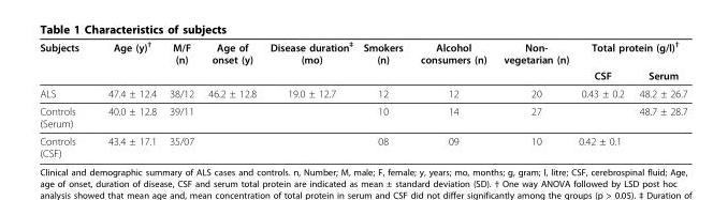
<table><thead><tr><td rowspan="2">Subjects</td><td rowspan="2">Age (y)<sup>†</sup></td><td rowspan="2">M/F (n)</td><td rowspan="2">Age of onset (y)</td><td rowspan="2">Disease duration<sup>‡</sup> (mo)</td><td rowspan="2">Smokers (n)</td><td rowspan="2">Alcohol consumers (n)</td><td rowspan="2">Non- vegetarian (n)</td><td colspan="2">Total protein (g/l)<sup>†</sup></td></tr><tr><td>CSF</td><td>Serum</td></tr></thead><tbody><tr><td>ALS</td><td>47.4 ± 12.4</td><td>38/12</td><td>46.2 ± 12.8</td><td>19.0 ± 12.7</td><td>12</td><td>12</td><td>20</td><td>0.43 ± 0.2</td><td>48.2 ± 26.7</td></tr><tr><td>Controls (Serum)</td><td>40.0 ± 12.8</td><td>39/11</td><td></td><td></td><td>10</td><td>14</td><td>27</td><td></td><td>48.7 ± 28.7</td></tr><tr><td>Controls (CSF)</td><td>43.4 ± 17.1</td><td>35/07</td><td></td><td></td><td>08</td><td>09</td><td>10</td><td>0.42 ± 0.1</td><td></td></tr></tbody></table>